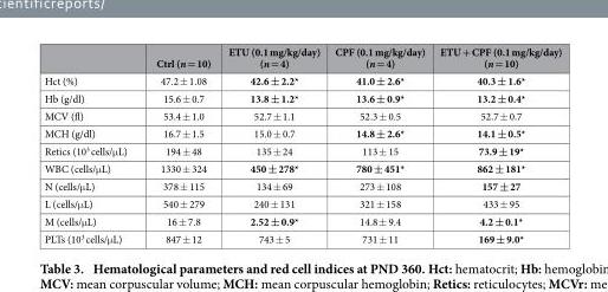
<table><thead><tr><td></td><td>Ctrl (n = 10)</td><td>ETU (0.1 mg/kg/day) (n = 4)</td><td>CPF (0.1 mg/kg/day) (n = 4)</td><td>ETU + CPF (0.1 mg/kg/day) (n = 10)</td></tr></thead><tbody><tr><td>Hct (%)</td><td>47.2 ± 1.08</td><td>42.6 ± 2.2*</td><td>41.0 ± 2.6*</td><td>40.3 ± 1.6*</td></tr><tr><td>Hb (g/dl)</td><td>15.6 ± 0.7</td><td>13.8 ± 1.2*</td><td>13.6 ± 0.9*</td><td>13.2 ± 0.4*</td></tr><tr><td>MCV (fl)</td><td>53.4 ± 1.0</td><td>52.7 ± 1.1</td><td>52.3 ± 0.5</td><td>52.7 ± 0.7</td></tr><tr><td>MCH (g/dl)</td><td>16.7 ± 1.5</td><td>15.0 ± 0.7</td><td>14.8 ± 2.6*</td><td>14.1 ± 0.5*</td></tr><tr><td>Retics (10<sup>3</sup> cells/μ L)</td><td>194 ± 48</td><td>135 ± 24</td><td>113 ± 15</td><td>73.9 ± 19*</td></tr><tr><td>WBC (cells/μ L)</td><td>1330 ± 324</td><td>450 ± 278*</td><td>780 ± 451*</td><td>862 ± 181*</td></tr><tr><td>N (cells/μ L)</td><td>378 ± 115</td><td>134 ± 69</td><td>273 ± 108</td><td>157 ± 27</td></tr><tr><td>L (cells/μ L)</td><td>540 ± 279</td><td>240 ± 131</td><td>321 ± 158</td><td>433 ± 95</td></tr><tr><td>M (cells/μ L)</td><td>16 ± 7.8</td><td>2.52 ± 0.9*</td><td>14.8 ± 9.4</td><td>4.2 ± 0.1*</td></tr><tr><td>PLTs (10<sup>3</sup> cells/μ L)</td><td>847 ± 12</td><td>743 ± 5</td><td>731 ± 11</td><td>169 ± 9.0*</td></tr></tbody></table>